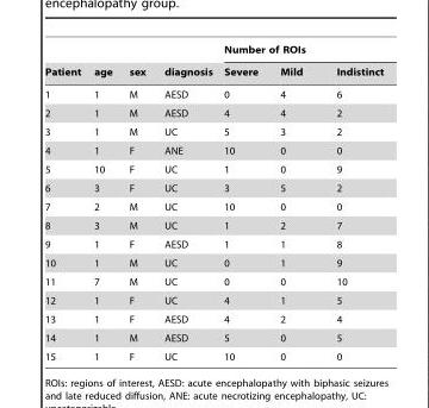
<table><thead><tr><td rowspan="2">Patient</td><td rowspan="2">age</td><td rowspan="2">sex</td><td rowspan="2">diagnosis</td><td colspan="3">Number of ROIs</td></tr><tr><td>Severe</td><td>Mild</td><td>Indistinct</td></tr></thead><tbody><tr><td>1</td><td>1</td><td>M</td><td>AESD</td><td>0</td><td>4</td><td>6</td></tr><tr><td>2</td><td>1</td><td>M</td><td>AESD</td><td>4</td><td>4</td><td>2</td></tr><tr><td>3</td><td>1</td><td>M</td><td>UC</td><td>5</td><td>3</td><td>2</td></tr><tr><td>4</td><td>1</td><td>F</td><td>ANE</td><td>10</td><td>0</td><td>0</td></tr><tr><td>5</td><td>10</td><td>F</td><td>UC</td><td>1</td><td>0</td><td>9</td></tr><tr><td>6</td><td>3</td><td>F</td><td>UC</td><td>3</td><td>5</td><td>2</td></tr><tr><td>7</td><td>2</td><td>M</td><td>UC</td><td>10</td><td>0</td><td>0</td></tr><tr><td>8</td><td>3</td><td>M</td><td>UC</td><td>1</td><td>2</td><td>7</td></tr><tr><td>9</td><td>1</td><td>F</td><td>AESD</td><td>1</td><td>1</td><td>8</td></tr><tr><td>10</td><td>1</td><td>M</td><td>UC</td><td>0</td><td>1</td><td>9</td></tr><tr><td>11</td><td>7</td><td>M</td><td>UC</td><td>0</td><td>0</td><td>10</td></tr><tr><td>12</td><td>1</td><td>F</td><td>UC</td><td>4</td><td>1</td><td>5</td></tr><tr><td>13</td><td>1</td><td>F</td><td>AESD</td><td>4</td><td>2</td><td>4</td></tr><tr><td>14</td><td>1</td><td>M</td><td>AESD</td><td>5</td><td>0</td><td>5</td></tr><tr><td>15</td><td>1</td><td>F</td><td>UC</td><td>10</td><td>0</td><td>0</td></tr></tbody></table>